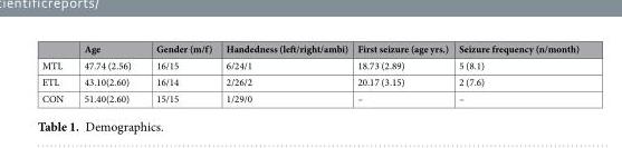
<table><thead><tr><td></td><td>Age</td><td>Gender (m/f)</td><td>Handedness (left/right/ambi)</td><td>First seizure (age yrs.)</td><td>Seizure frequency (n/month)</td></tr></thead><tbody><tr><td>MTL</td><td>47.74 (2.56)</td><td>16/15</td><td>6/24/1</td><td>18.73 (2.89)</td><td>5 (8.1)</td></tr><tr><td>ETL</td><td>43.10(2.60)</td><td>16/14</td><td>2/26/2</td><td>20.17 (3.15)</td><td>2 (7.6)</td></tr><tr><td>CON</td><td>51.40(2.60)</td><td>15/15</td><td>1/29/0</td><td>–</td><td>–</td></tr></tbody></table>